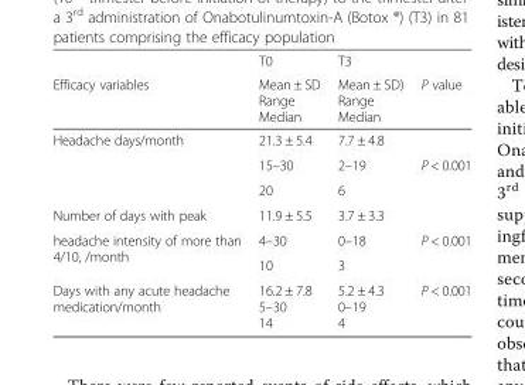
<table><thead><tr><td rowspan="2">Efficacy variables</td><td rowspan="2">T0 Mean ± SD Range Median</td><td rowspan="2">T3 Mean ± SD) Range Median</td><td rowspan="2">P value</td></tr><tr></tr></thead><tbody><tr><td rowspan="3">Headache days/month</td><td>21.3 ± 5.4</td><td>7.7 ± 4.8</td><td></td></tr><tr><td>15–30</td><td>2–19</td><td rowspan="2">P &lt; 0.001</td></tr><tr><td>20</td><td>6</td></tr><tr><td>Number of days with peak</td><td>11.9 ± 5.5</td><td>3.7 ± 3.3</td><td></td></tr><tr><td rowspan="2">headache intensity of more than 4/10, /month</td><td>4–30</td><td>0–18</td><td rowspan="2">P &lt; 0.001</td></tr><tr><td>10</td><td>3</td></tr><tr><td>Days with any acute headache medication/month</td><td>16.2 ± 7.8 5–30 14</td><td>5.2 ± 4.3 0–19 4</td><td>P &lt; 0.001</td></tr></tbody></table>